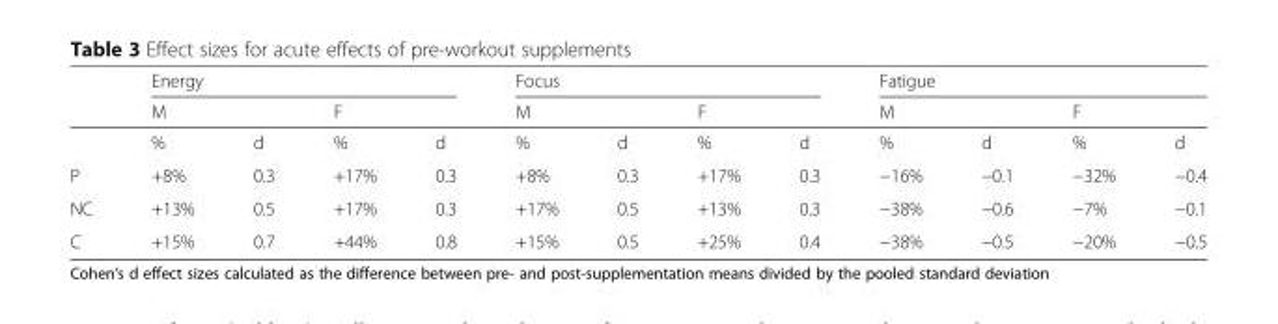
<table><thead><tr><td rowspan="3"></td><td colspan="4">Energy</td><td colspan="4">Focus</td><td colspan="4">Fatigue</td></tr><tr><td colspan="2">M</td><td colspan="2">F</td><td colspan="2">M</td><td colspan="2">F</td><td colspan="2">M</td><td colspan="2">F</td></tr><tr><td>%</td><td>d</td><td>%</td><td>d</td><td>%</td><td>d</td><td>%</td><td>d</td><td>%</td><td>d</td><td>%</td><td>d</td></tr></thead><tbody><tr><td>P</td><td>+8%</td><td>0.3</td><td>+17%</td><td>0.3</td><td>+8%</td><td>0.3</td><td>+17%</td><td>0.3</td><td>−16%</td><td>−0.1</td><td>−32%</td><td>−0.4</td></tr><tr><td>NC</td><td>+13%</td><td>0.5</td><td>+17%</td><td>0.3</td><td>+17%</td><td>0.5</td><td>+13%</td><td>0.3</td><td>−38%</td><td>−0.6</td><td>−7%</td><td>−0.1</td></tr><tr><td>C</td><td>+15%</td><td>0.7</td><td>+44%</td><td>0.8</td><td>+15%</td><td>0.5</td><td>+25%</td><td>0.4</td><td>−38%</td><td>−0.5</td><td>−20%</td><td>−0.5</td></tr></tbody></table>